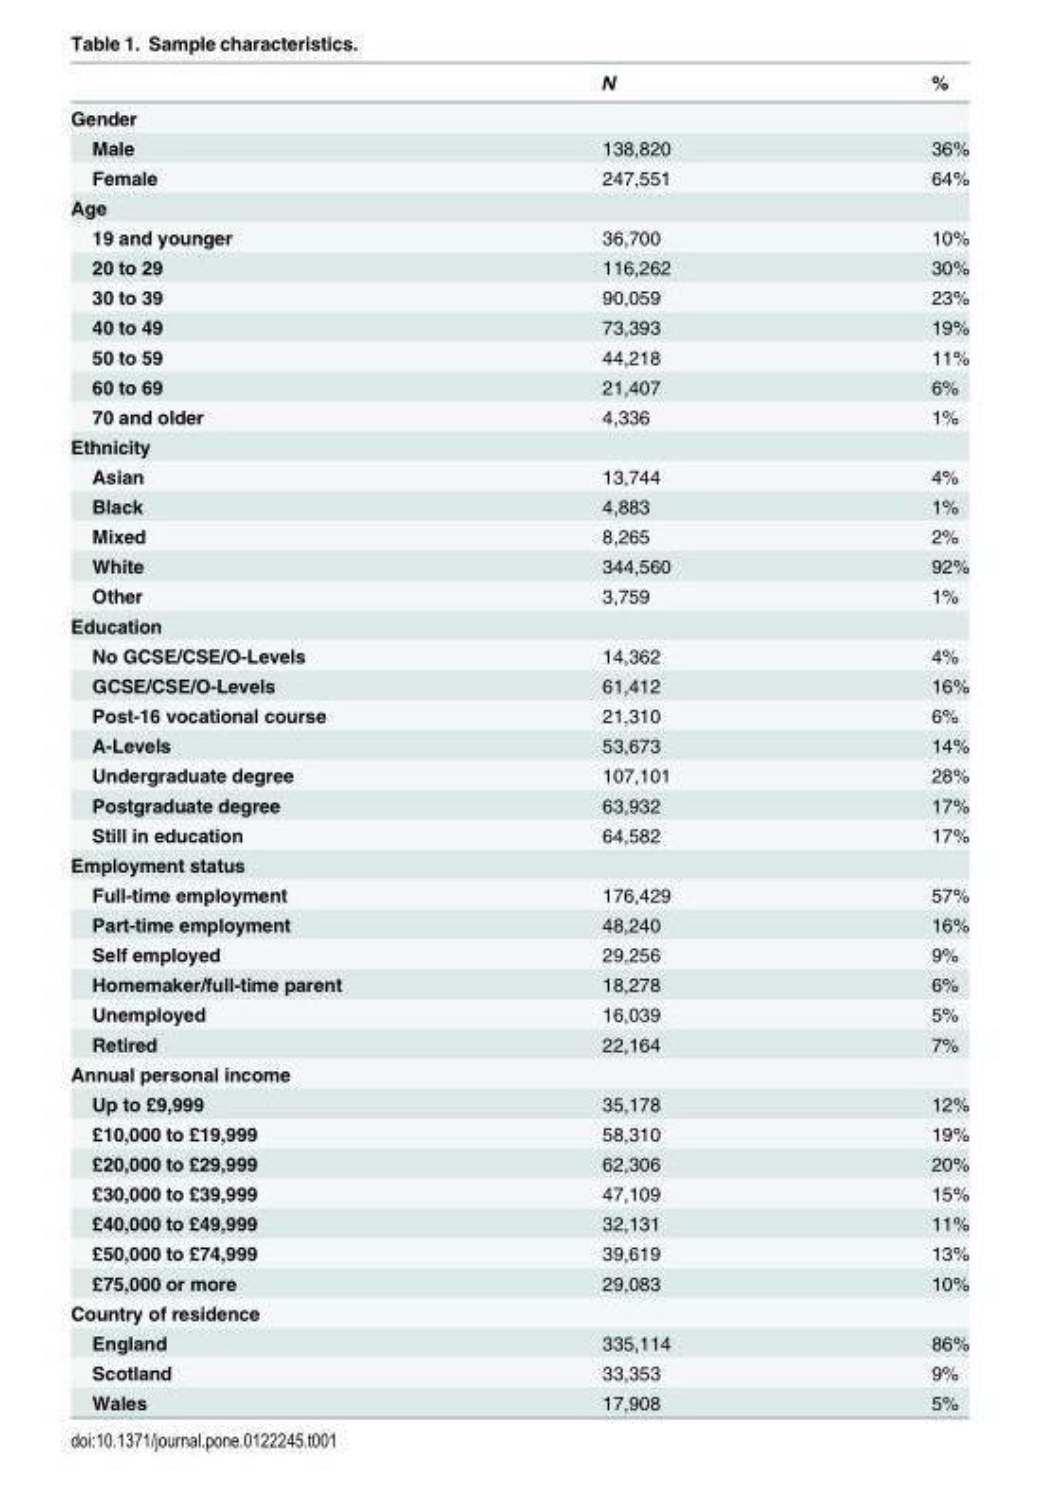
<table><thead><tr><td></td><td>N</td><td>%</td></tr></thead><tbody><tr><td colspan="3">Gender</td></tr><tr><td>Male</td><td>138,820</td><td>36%</td></tr><tr><td>Female</td><td>247,551</td><td>64%</td></tr><tr><td colspan="3">Age</td></tr><tr><td>19 and younger</td><td>36,700</td><td>10%</td></tr><tr><td>20 to 29</td><td>116,262</td><td>30%</td></tr><tr><td>30 to 39</td><td>90,059</td><td>23%</td></tr><tr><td>40 to 49</td><td>73,393</td><td>19%</td></tr><tr><td>50 to 59</td><td>44,218</td><td>11%</td></tr><tr><td>60 to 69</td><td>21,407</td><td>6%</td></tr><tr><td>70 and older</td><td>4,336</td><td>1%</td></tr><tr><td colspan="3">Ethnicity</td></tr><tr><td>Asian</td><td>13,744</td><td>4%</td></tr><tr><td>Black</td><td>4,883</td><td>1%</td></tr><tr><td>Mixed</td><td>8,265</td><td>2%</td></tr><tr><td>White</td><td>344,560</td><td>92%</td></tr><tr><td>Other</td><td>3,759</td><td>1%</td></tr><tr><td colspan="3">Education</td></tr><tr><td>No GCSE/CSE/O-Levels</td><td>14,362</td><td>4%</td></tr><tr><td>GCSE/CSE/O-Levels</td><td>61,412</td><td>16%</td></tr><tr><td>Post-16 vocational course</td><td>21,310</td><td>6%</td></tr><tr><td>A-Levels</td><td>53,673</td><td>14%</td></tr><tr><td>Undergraduate degree</td><td>107,101</td><td>28%</td></tr><tr><td>Postgraduate degree</td><td>63,932</td><td>17%</td></tr><tr><td>Still in education</td><td>64,582</td><td>17%</td></tr><tr><td colspan="3">Employment status</td></tr><tr><td>Full-time employment</td><td>176,429</td><td>57%</td></tr><tr><td>Part-time employment</td><td>48,240</td><td>16%</td></tr><tr><td>Self employed</td><td>29,256</td><td>9%</td></tr><tr><td>Homemaker/full-time parent</td><td>18,278</td><td>6%</td></tr><tr><td>Unemployed</td><td>16,039</td><td>5%</td></tr><tr><td>Retired</td><td>22,164</td><td>7%</td></tr><tr><td colspan="3">Annual personal income</td></tr><tr><td>Up to £9,999</td><td>35,178</td><td>12%</td></tr><tr><td>£10,000 to £19,999</td><td>58,310</td><td>19%</td></tr><tr><td>£20,000 to £29,999</td><td>62,306</td><td>20%</td></tr><tr><td>£30,000 to £39,999</td><td>47,109</td><td>15%</td></tr><tr><td>£40,000 to £49,999</td><td>32,131</td><td>11%</td></tr><tr><td>£50,000 to £74,999</td><td>39,619</td><td>13%</td></tr><tr><td>£75,000 or more</td><td>29,083</td><td>10%</td></tr><tr><td colspan="3">Country of residence</td></tr><tr><td>England</td><td>335,114</td><td>86%</td></tr><tr><td>Scotland</td><td>33,353</td><td>9%</td></tr><tr><td>Wales</td><td>17,908</td><td>5%</td></tr></tbody></table>